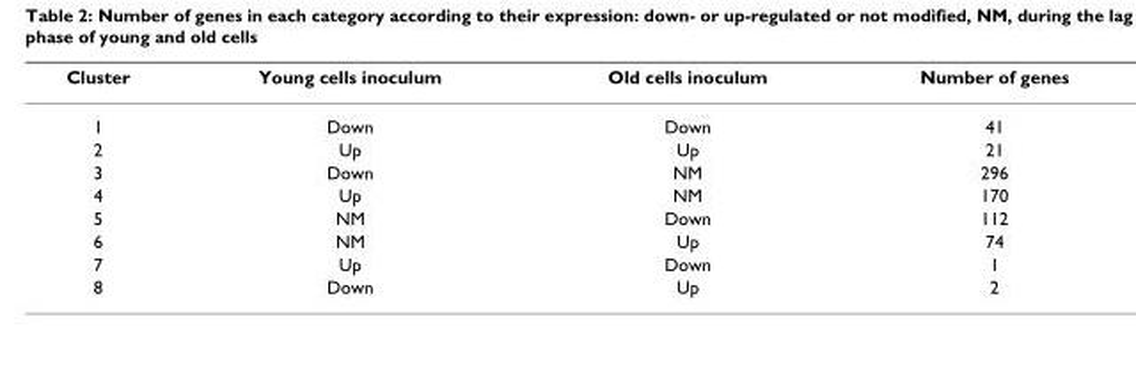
<table><thead><tr><td>Cluster</td><td>Young cells inoculum</td><td>Old cells inoculum</td><td>Number of genes</td></tr></thead><tbody><tr><td>1</td><td>Down</td><td>Down</td><td>41</td></tr><tr><td>2</td><td>Up</td><td>Up</td><td>21</td></tr><tr><td>3</td><td>Down</td><td>NM</td><td>296</td></tr><tr><td>4</td><td>Up</td><td>NM</td><td>170</td></tr><tr><td>5</td><td>NM</td><td>Down</td><td>112</td></tr><tr><td>6</td><td>NM</td><td>Up</td><td>74</td></tr><tr><td>7</td><td>Up</td><td>Down</td><td>1</td></tr><tr><td>8</td><td>Down</td><td>Up</td><td>2</td></tr></tbody></table>